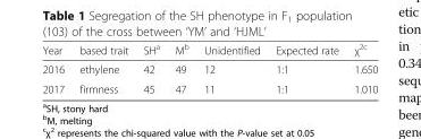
<table><thead><tr><td>Year</td><td>based trait</td><td>SH<sup>a</sup></td><td>M<sup>b</sup></td><td>Unidentified</td><td>Expected rate</td><td>χ<sup>2c</sup></td></tr></thead><tbody><tr><td>2016</td><td>ethylene</td><td>42</td><td>49</td><td>12</td><td>1:1</td><td>1.650</td></tr><tr><td>2017</td><td>firmness</td><td>45</td><td>47</td><td>11</td><td>1:1</td><td>1.010</td></tr></tbody></table>